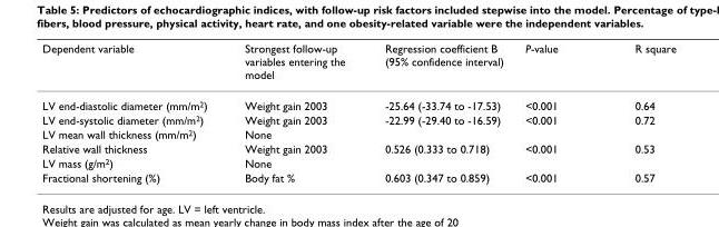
<table><thead><tr><td>Dependent variable</td><td>Strongest follow-up variables entering the model</td><td>Regression coefficient B (95% confidence interval)</td><td>P-value</td><td>R square</td></tr></thead><tbody><tr><td>LV end-diastolic diameter (mm/m<sup>2</sup>)</td><td>Weight gain 2003</td><td>-25.64 (-33.74 to -17.53)</td><td>&lt;0.001</td><td>0.64</td></tr><tr><td>LV end-systolic diameter (mm/m<sup>2</sup>)</td><td>Weight gain 2003</td><td>-22.99 (-29.40 to -16.59)</td><td>&lt;0.001</td><td>0.72</td></tr><tr><td>LV mean wall thickness (mm/m<sup>2</sup>)</td><td>None</td><td></td><td></td><td></td></tr><tr><td>Relative wall thickness</td><td>Weight gain 2003</td><td>0.526 (0.333 to 0.718)</td><td>&lt;0.001</td><td>0.53</td></tr><tr><td>LV mass (g/m<sup>2</sup>)</td><td>None</td><td></td><td></td><td></td></tr><tr><td>Fractional shortening (%)</td><td>Body fat %</td><td>0.603 (0.347 to 0.859)</td><td>&lt;0.001</td><td>0.57</td></tr></tbody></table>